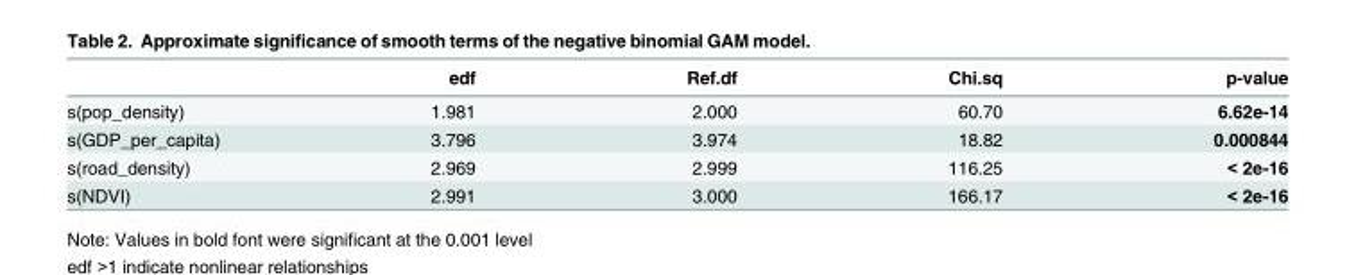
<table><thead><tr><td></td><td>edf</td><td>Ref.df</td><td>Chi.sq</td><td>p-value</td></tr></thead><tbody><tr><td>s(pop_density)</td><td>1.981</td><td>2.000</td><td>60.70</td><td>6.62e-14</td></tr><tr><td>s(GDP_per_capita)</td><td>3.796</td><td>3.974</td><td>18.82</td><td>0.000844</td></tr><tr><td>s(road_density)</td><td>2.969</td><td>2.999</td><td>116.25</td><td>&lt; 2e-16</td></tr><tr><td>s(NDVI)</td><td>2.991</td><td>3.000</td><td>166.17</td><td>&lt; 2e-16</td></tr></tbody></table>